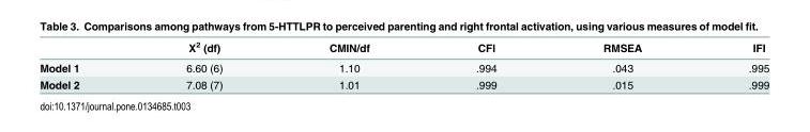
<table><thead><tr><td></td><td>X<sup>2</sup> (df)</td><td>CMIN/df</td><td>CFI</td><td>RMSEA</td><td>IFI</td></tr></thead><tbody><tr><td>Model 1</td><td>6.60 (6)</td><td>1.10</td><td>.994</td><td>.043</td><td>.995</td></tr><tr><td>Model 2</td><td>7.08 (7)</td><td>1.01</td><td>.999</td><td>.015</td><td>.999</td></tr></tbody></table>